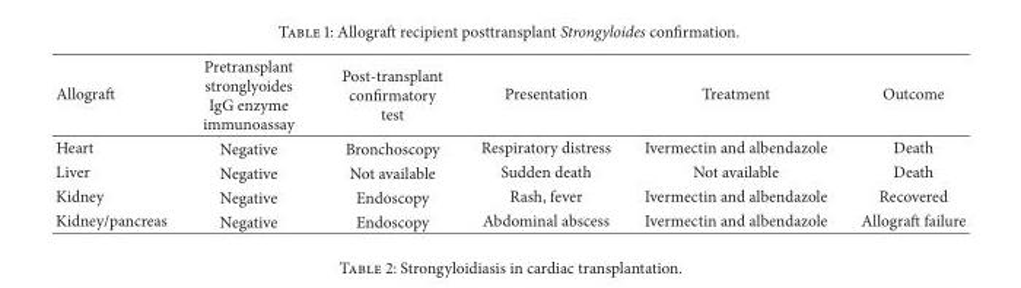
<table><thead><tr><td>Allograft</td><td>Pretransplant stronglyoides IgG enzyme immunoassay</td><td>Post-transplant confirmatory test</td><td>Presentation</td><td>Treatment</td><td>Outcome</td></tr></thead><tbody><tr><td>Heart</td><td>Negative</td><td>Bronchoscopy</td><td>Respiratory distress</td><td>Ivermectin and albendazole</td><td>Death</td></tr><tr><td>Liver</td><td>Negative</td><td>Not available</td><td>Sudden death</td><td>Not available</td><td>Death</td></tr><tr><td>Kidney</td><td>Negative</td><td>Endoscopy</td><td>Rash, fever</td><td>Ivermectin and albendazole</td><td>Recovered</td></tr><tr><td>Kidney/pancreas</td><td>Negative</td><td>Endoscopy</td><td>Abdominal abscess</td><td>Ivermectin and albendazole</td><td>Allograft failure</td></tr></tbody></table>